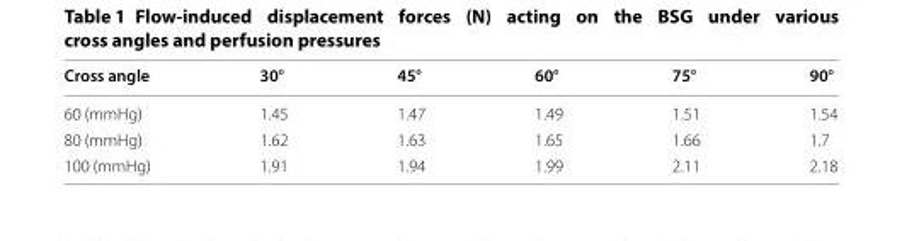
<table><thead><tr><td>Cross angle</td><td>30°</td><td>45°</td><td>60°</td><td>75°</td><td>90°</td></tr></thead><tbody><tr><td>60 (mmHg)</td><td>1.45</td><td>1.47</td><td>1.49</td><td>1.51</td><td>1.54</td></tr><tr><td>80 (mmHg)</td><td>1.62</td><td>1.63</td><td>1.65</td><td>1.66</td><td>1.7</td></tr><tr><td>100 (mmHg)</td><td>1.91</td><td>1.94</td><td>1.99</td><td>2.11</td><td>2.18</td></tr></tbody></table>